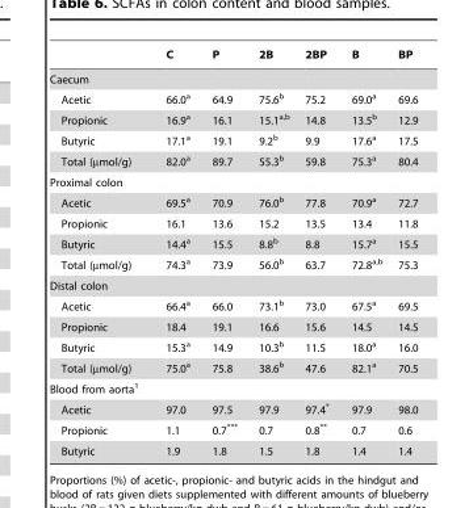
<table><thead><tr><td></td><td>C</td><td>P</td><td>2B</td><td>2BP</td><td>B</td><td>BP</td></tr></thead><tbody><tr><td colspan="7">Caecum</td></tr><tr><td>Acetic</td><td>66.0<sup>a</sup></td><td>64.9</td><td>75.6<sup>b</sup></td><td>75.2</td><td>69.0<sup>a</sup></td><td>69.6</td></tr><tr><td>Propionic</td><td>16.9<sup>a</sup></td><td>16.1</td><td>15.1<sup>a,b</sup></td><td>14.8</td><td>13.5<sup>b</sup></td><td>12.9</td></tr><tr><td>Butyric</td><td>17.1<sup>a</sup></td><td>19.1</td><td>9.2<sup>b</sup></td><td>9.9</td><td>17.6<sup>a</sup></td><td>17.5</td></tr><tr><td>Total (µmol/g)</td><td>82.0<sup>a</sup></td><td>89.7</td><td>55.3<sup>b</sup></td><td>59.8</td><td>75.3<sup>a</sup></td><td>80.4</td></tr><tr><td colspan="7">Proximal colon</td></tr><tr><td>Acetic</td><td>69.5<sup>a</sup></td><td>70.9</td><td>76.0<sup>b</sup></td><td>77.8</td><td>70.9<sup>a</sup></td><td>72.7</td></tr><tr><td>Propionic</td><td>16.1</td><td>13.6</td><td>15.2</td><td>13.5</td><td>13.4</td><td>11.8</td></tr><tr><td>Butyric</td><td>14.4<sup>a</sup></td><td>15.5</td><td>8.8<sup>b</sup></td><td>8.8</td><td>15.7<sup>a</sup></td><td>15.5</td></tr><tr><td>Total (µmol/g)</td><td>74.3<sup>a</sup></td><td>73.9</td><td>56.0<sup>b</sup></td><td>63.7</td><td>72.8<sup>a,b</sup></td><td>75.3</td></tr><tr><td colspan="7">Distal colon</td></tr><tr><td>Acetic</td><td>66.4<sup>a</sup></td><td>66.0</td><td>73.1<sup>b</sup></td><td>73.0</td><td>67.5<sup>a</sup></td><td>69.5</td></tr><tr><td>Propionic</td><td>18.4</td><td>19.1</td><td>16.6</td><td>15.6</td><td>14.5</td><td>14.5</td></tr><tr><td>Butyric</td><td>15.3<sup>a</sup></td><td>14.9</td><td>10.3<sup>b</sup></td><td>11.5</td><td>18.0<sup>a</sup></td><td>16.0</td></tr><tr><td>Total (µmol/g)</td><td>75.0<sup>a</sup></td><td>75.8</td><td>38.6<sup>b</sup></td><td>47.6</td><td>82.1<sup>a</sup></td><td>70.5</td></tr><tr><td colspan="7">Blood from aorta<sup>1</sup></td></tr><tr><td>Acetic</td><td>97.0</td><td>97.5</td><td>97.9</td><td>97.4*</td><td>97.9</td><td>98.0</td></tr><tr><td>Propionic</td><td>1.1</td><td>0.7***</td><td>0.7</td><td>0.8**</td><td>0.7</td><td>0.6</td></tr><tr><td>Butyric</td><td>1.9</td><td>1.8</td><td>1.5</td><td>1.8</td><td>1.4</td><td>1.4</td></tr></tbody></table>